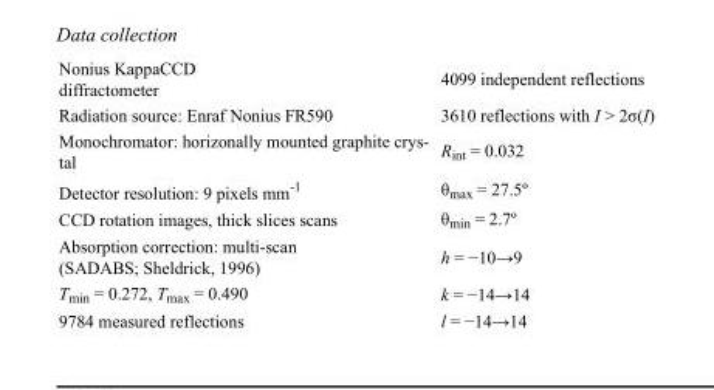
<table><tbody><tr><td>Nonius KappaCCD diffractometer</td><td>4099 independent reflections</td></tr><tr><td>Radiation source: Enraf Nonius FR590</td><td>3610 reflections with I &gt; 2σ(I)</td></tr><tr><td>Monochromator: horizonally mounted graphite crys- tal</td><td>R<sub>int</sub> = 0.032</td></tr><tr><td>Detector resolution: 9 pixels mm<sup>-1</sup></td><td>θ<sub>max</sub> = 27.5º</td></tr><tr><td>CCD rotation images, thick slices scans</td><td>θ<sub>min</sub> = 2.7º</td></tr><tr><td>Absorption correction: multi-scan (SADABS; Sheldrick, 1996)</td><td>h = −10→9</td></tr><tr><td>T<sub>min</sub> = 0.272, T<sub>max</sub> = 0.490</td><td>k = −14→14</td></tr><tr><td>9784 measured reflections</td><td>l = −14→14</td></tr></tbody></table>